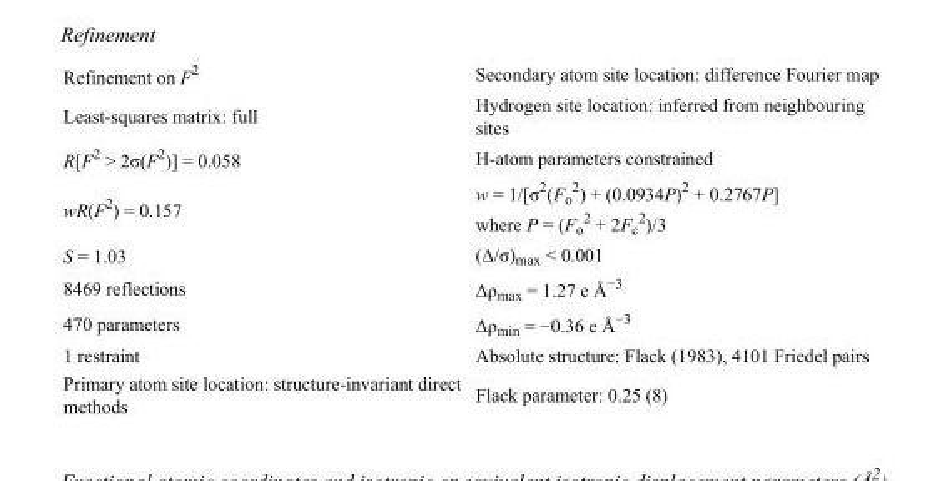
<table><tbody><tr><td>Refinement on F<sup>2</sup></td><td>Secondary atom site location: difference Fourier map</td></tr><tr><td>Least-squares matrix: full</td><td>Hydrogen site location: inferred from neighbouring sites</td></tr><tr><td>R[F<sup>2</sup> &gt; 2σ(F<sup>2</sup>)] = 0.058</td><td>H-atom parameters constrained</td></tr><tr><td>wR(F<sup>2</sup>) = 0.157</td><td>w = 1/[σ<sup>2</sup>(F<sub>o</sub> <sup>2</sup>) + (0.0934P)<sup>2</sup> + 0.2767P] where P = (F<sub>o</sub> <sup>2</sup> + 2F<sub>c</sub> <sup>2</sup>)/3</td></tr><tr><td>S = 1.03</td><td>(Δ/σ)<sub>max</sub> &lt; 0.001</td></tr><tr><td>8469 reflections</td><td>Δρ<sub>max</sub> = 1.27 e Å<sup>−3</sup></td></tr><tr><td>470 parameters</td><td>Δρ<sub>min</sub> = −0.36 e Å<sup>−3</sup></td></tr><tr><td>1 restraint</td><td>Absolute structure: Flack (1983), 4101 Friedel pairs</td></tr><tr><td>Primary atom site location: structure-invariant direct methods</td><td>Flack parameter: 0.25 (8)</td></tr></tbody></table>